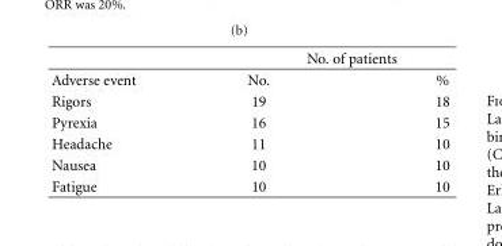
<table><thead><tr><td rowspan="2">Adverse event</td><td colspan="2">No. of patients</td></tr><tr><td>No.</td><td>%</td></tr></thead><tbody><tr><td>Rigors</td><td>19</td><td>18</td></tr><tr><td>Pyrexia</td><td>16</td><td>15</td></tr><tr><td>Headache</td><td>11</td><td>10</td></tr><tr><td>Nausea</td><td>10</td><td>10</td></tr><tr><td>Fatigue</td><td>10</td><td>10</td></tr></tbody></table>